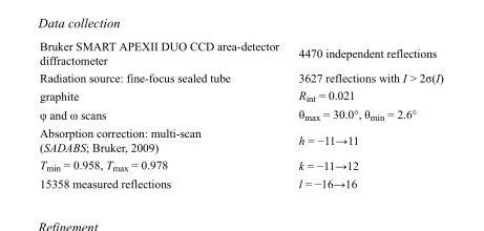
<table><tbody><tr><td>Bruker SMART APEXII DUO CCD area-detector diffractometer</td><td>4470 independent reflections</td></tr><tr><td>Radiation source: fine-focus sealed tube</td><td>3627 reflections with I &gt; 2σ(I)</td></tr><tr><td>graphite</td><td>R<sub>int</sub> = 0.021</td></tr><tr><td>φ and ω scans</td><td>θ<sub>max</sub> = 30.0°, θ<sub>min</sub> = 2.6°</td></tr><tr><td>Absorption correction: multi-scan (SADABS; Bruker, 2009)</td><td>h = −11→11</td></tr><tr><td>T<sub>min</sub> = 0.958, T<sub>max</sub> = 0.978</td><td>k = −11→12</td></tr><tr><td>15358 measured reflections</td><td>l = −16→16</td></tr></tbody></table>